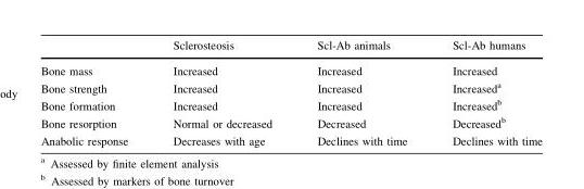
<table><thead><tr><td></td><td>Sclerosteosis</td><td>Scl-Ab animals</td><td>Scl-Ab humans</td></tr></thead><tbody><tr><td>Bone mass</td><td>Increased</td><td>Increased</td><td>Increased</td></tr><tr><td>Bone strength</td><td>Increased</td><td>Increased</td><td>Increased<sup>a</sup></td></tr><tr><td>Bone formation</td><td>Increased</td><td>Increased</td><td>Increased<sup>b</sup></td></tr><tr><td>Bone resorption</td><td>Normal or decreased</td><td>Decreased</td><td>Decreased<sup>b</sup></td></tr><tr><td>Anabolic response</td><td>Decreases with age</td><td>Declines with time</td><td>Declines with time</td></tr></tbody></table>